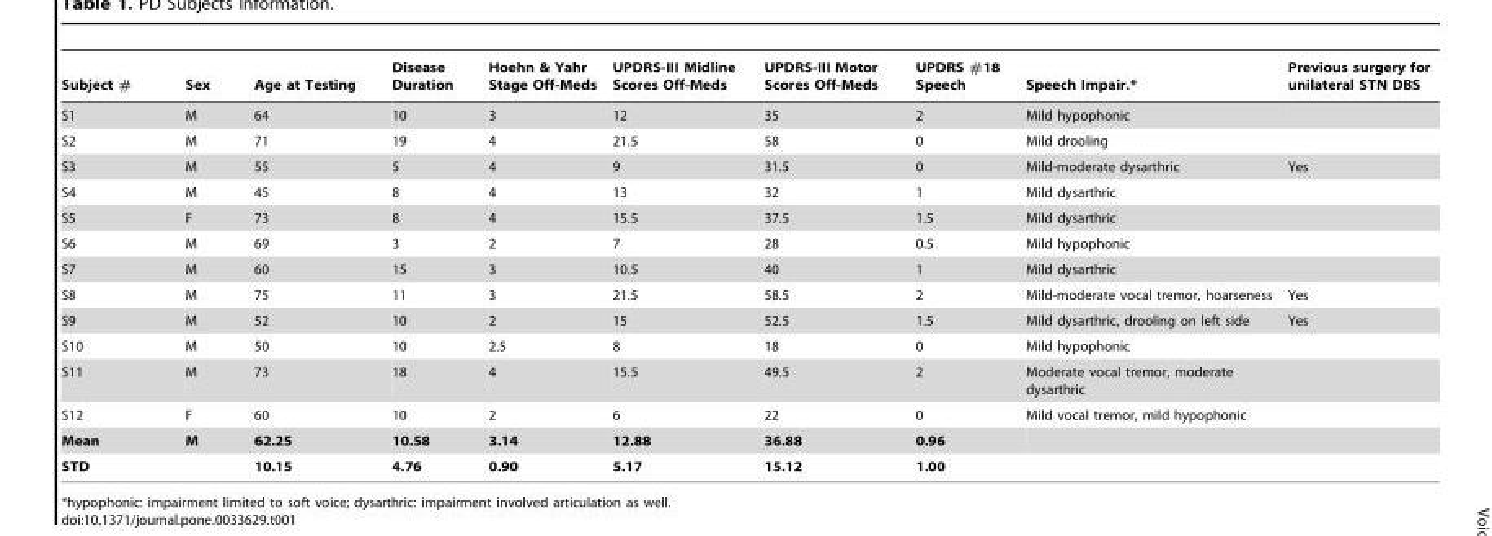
<table><thead><tr><td>Subject #</td><td>Sex</td><td>Age at Testing</td><td>Disease Duration</td><td>Hoehn &amp; Yahr Stage Off-Meds</td><td>UPDRS-III Midline Scores Off-Meds</td><td>UPDRS-III Motor Scores Off-Meds</td><td>UPDRS #18 Speech</td><td>Speech Impair.*</td><td>Previous surgery for unilateral STN DBS</td></tr></thead><tbody><tr><td>S1</td><td>M</td><td>64</td><td>10</td><td>3</td><td>12</td><td>35</td><td>2</td><td>Mild hypophonic</td><td></td></tr><tr><td>S2</td><td>M</td><td>71</td><td>19</td><td>4</td><td>21.5</td><td>58</td><td>0</td><td>Mild drooling</td><td></td></tr><tr><td>S3</td><td>M</td><td>55</td><td>5</td><td>4</td><td>9</td><td>31.5</td><td>0</td><td>Mild-moderate dysarthric</td><td>Yes</td></tr><tr><td>S4</td><td>M</td><td>45</td><td>8</td><td>4</td><td>13</td><td>32</td><td>1</td><td>Mild dysarthric</td><td></td></tr><tr><td>S5</td><td>F</td><td>73</td><td>8</td><td>4</td><td>15.5</td><td>37.5</td><td>1.5</td><td>Mild dysarthric</td><td></td></tr><tr><td>S6</td><td>M</td><td>69</td><td>3</td><td>2</td><td>7</td><td>28</td><td>0.5</td><td>Mild hypophonic</td><td></td></tr><tr><td>S7</td><td>M</td><td>60</td><td>15</td><td>3</td><td>10.5</td><td>40</td><td>1</td><td>Mild dysarthric</td><td></td></tr><tr><td>S8</td><td>M</td><td>75</td><td>11</td><td>3</td><td>21.5</td><td>58.5</td><td>2</td><td>Mild-moderate vocal tremor, hoarseness</td><td>Yes</td></tr><tr><td>S9</td><td>M</td><td>52</td><td>10</td><td>2</td><td>15</td><td>52.5</td><td>1.5</td><td>Mild dysarthric, drooling on left side</td><td>Yes</td></tr><tr><td>S10</td><td>M</td><td>50</td><td>10</td><td>2.5</td><td>8</td><td>18</td><td>0</td><td>Mild hypophonic</td><td></td></tr><tr><td>S11</td><td>M</td><td>73</td><td>18</td><td>4</td><td>15.5</td><td>49.5</td><td>2</td><td>Moderate vocal tremor, moderate dysarthric</td><td></td></tr><tr><td>S12</td><td>F</td><td>60</td><td>10</td><td>2</td><td>6</td><td>22</td><td>0</td><td>Mild vocal tremor, mild hypophonic</td><td></td></tr><tr><td>Mean</td><td>M</td><td>62.25</td><td>10.58</td><td>3.14</td><td>12.88</td><td>36.88</td><td>0.96</td><td></td><td></td></tr><tr><td>STD</td><td></td><td>10.15</td><td>4.76</td><td>0.90</td><td>5.17</td><td>15.12</td><td>1.00</td><td></td><td></td></tr></tbody></table>